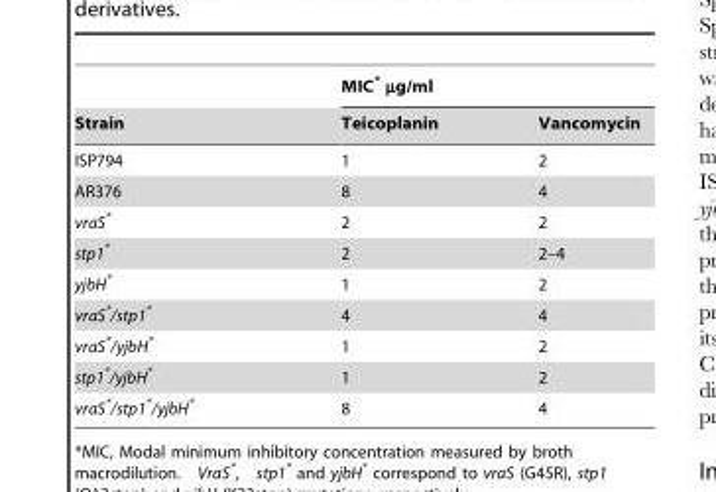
<table><thead><tr><td rowspan="2">Strain</td><td colspan="2">MIC* µg/ml</td></tr><tr><td>Teicoplanin</td><td>Vancomycin</td></tr></thead><tbody><tr><td>ISP794</td><td>1</td><td>2</td></tr><tr><td>AR376</td><td>8</td><td>4</td></tr><tr><td>vraS*</td><td>2</td><td>2</td></tr><tr><td>stp1*</td><td>2</td><td>2–4</td></tr><tr><td>yjbH*</td><td>1</td><td>2</td></tr><tr><td>vraS*/stp1*</td><td>4</td><td>4</td></tr><tr><td>vraS*/yjbH*</td><td>1</td><td>2</td></tr><tr><td>stp1*/yjbH*</td><td>1</td><td>2</td></tr><tr><td>vraS*/stp1*/yjbH*</td><td>8</td><td>4</td></tr></tbody></table>